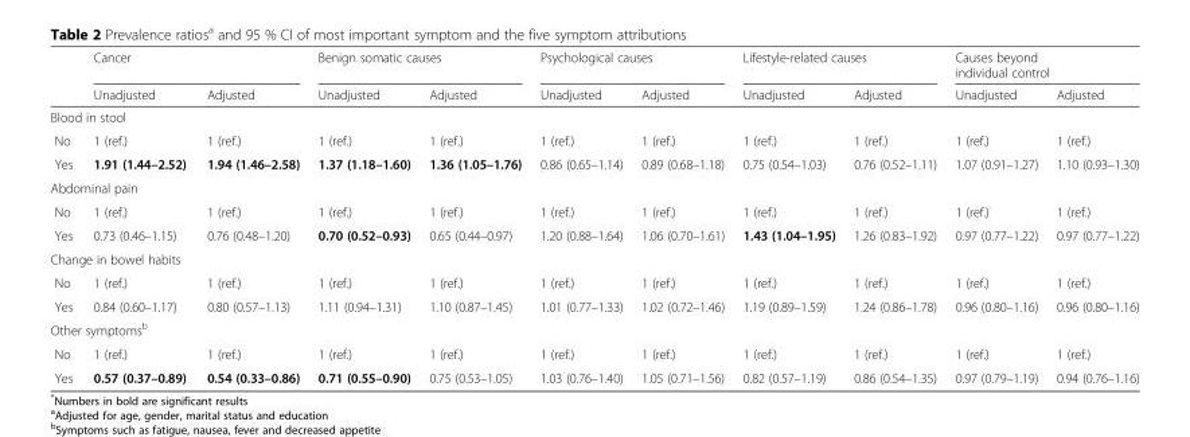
<table><thead><tr><td rowspan="2"></td><td colspan="2">Cancer</td><td colspan="2">Benign somatic causes</td><td colspan="2">Psychological causes</td><td colspan="2">Lifestyle-related causes</td><td colspan="2">Causes beyond individual control</td></tr><tr><td>Unadjusted</td><td>Adjusted</td><td>Unadjusted</td><td>Adjusted</td><td>Unadjusted</td><td>Adjusted</td><td>Unadjusted</td><td>Adjusted</td><td>Unadjusted</td><td>Adjusted</td></tr></thead><tbody><tr><td colspan="11">Blood in stool</td></tr><tr><td>No</td><td>1 (ref.)</td><td>1 (ref.)</td><td>1 (ref.)</td><td>1 (ref.)</td><td>1 (ref.)</td><td>1 (ref.)</td><td>1 (ref.)</td><td>1 (ref.)</td><td>1 (ref.)</td><td>1 (ref.)</td></tr><tr><td>Yes</td><td>1.91 (1.44–2.52)</td><td>1.94 (1.46–2.58)</td><td>1.37 (1.18–1.60)</td><td>1.36 (1.05–1.76)</td><td>0.86 (0.65–1.14)</td><td>0.89 (0.68–1.18)</td><td>0.75 (0.54–1.03)</td><td>0.76 (0.52–1.11)</td><td>1.07 (0.91–1.27)</td><td>1.10 (0.93–1.30)</td></tr><tr><td colspan="11">Abdominal pain</td></tr><tr><td>No</td><td>1 (ref.)</td><td>1 (ref.)</td><td>1 (ref.)</td><td>1 (ref.)</td><td>1 (ref.)</td><td>1 (ref.)</td><td>1 (ref.)</td><td>1 (ref.)</td><td>1 (ref.)</td><td>1 (ref.)</td></tr><tr><td>Yes</td><td>0.73 (0.46–1.15)</td><td>0.76 (0.48–1.20)</td><td>0.70 (0.52–0.93)</td><td>0.65 (0.44–0.97)</td><td>1.20 (0.88–1.64)</td><td>1.06 (0.70–1.61)</td><td>1.43 (1.04–1.95)</td><td>1.26 (0.83–1.92)</td><td>0.97 (0.77–1.22)</td><td>0.97 (0.77–1.22)</td></tr><tr><td colspan="11">Change in bowel habits</td></tr><tr><td>No</td><td>1 (ref.)</td><td>1 (ref.)</td><td>1 (ref.)</td><td>1 (ref.)</td><td>1 (ref.)</td><td>1 (ref.)</td><td>1 (ref.)</td><td>1 (ref.)</td><td>1 (ref.)</td><td>1 (ref.)</td></tr><tr><td>Yes</td><td>0.84 (0.60–1.17)</td><td>0.80 (0.57–1.13)</td><td>1.11 (0.94–1.31)</td><td>1.10 (0.87–1.45)</td><td>1.01 (0.77–1.33)</td><td>1.02 (0.72–1.46)</td><td>1.19 (0.89–1.59)</td><td>1.24 (0.86–1.78)</td><td>0.96 (0.80–1.16)</td><td>0.96 (0.80–1.16)</td></tr><tr><td colspan="11">Other symptoms<sup>b</sup></td></tr><tr><td>No</td><td>1 (ref.)</td><td>1 (ref.)</td><td>1 (ref.)</td><td>1 (ref.)</td><td>1 (ref.)</td><td>1 (ref.)</td><td>1 (ref.)</td><td>1 (ref.)</td><td>1 (ref.)</td><td>1 (ref.)</td></tr><tr><td>Yes</td><td>0.57 (0.37–0.89)</td><td>0.54 (0.33–0.86)</td><td>0.71 (0.55–0.90)</td><td>0.75 (0.53–1.05)</td><td>1.03 (0.76–1.40)</td><td>1.05 (0.71–1.56)</td><td>0.82 (0.57–1.19)</td><td>0.86 (0.54–1.35)</td><td>0.97 (0.79–1.19)</td><td>0.94 (0.76–1.16)</td></tr></tbody></table>